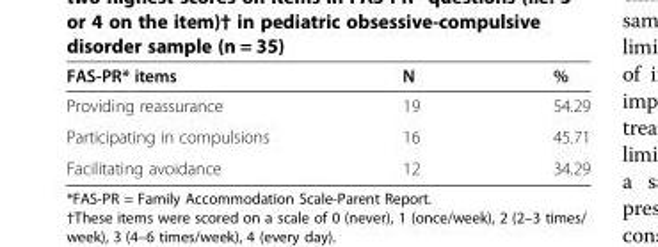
<table><thead><tr><td>FAS-PR* items</td><td>N</td><td>%</td></tr></thead><tbody><tr><td>Providing reassurance</td><td>19</td><td>54.29</td></tr><tr><td>Participating in compulsions</td><td>16</td><td>45.71</td></tr><tr><td>Facilitating avoidance</td><td>12</td><td>34.29</td></tr></tbody></table>